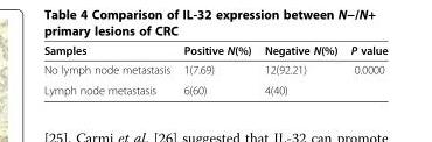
<table><thead><tr><td>Samples</td><td>Positive N(%)</td><td>Negative N(%)</td><td>P value</td></tr></thead><tbody><tr><td>No lymph node metastasis</td><td>1(7.69)</td><td>12(92.21)</td><td>0.0000</td></tr><tr><td>Lymph node metastasis</td><td>6(60)</td><td>4(40)</td><td></td></tr></tbody></table>